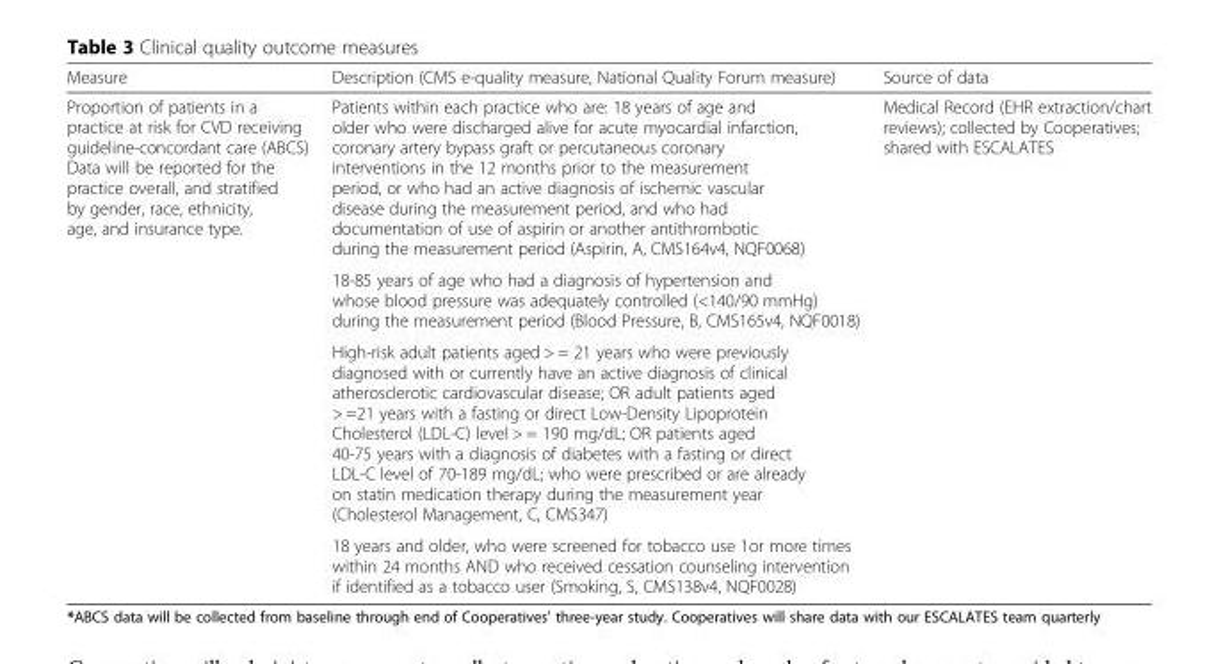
<table><thead><tr><td>Measure</td><td>Description (CMS e-quality measure, National Quality Forum measure)</td><td>Source of data</td></tr></thead><tbody><tr><td rowspan="4">Proportion of patients in a practice at risk for CVD receiving guideline-concordant care (ABCS) Data will be reported for the practice overall, and stratified by gender, race, ethnicity, age, and insurance type.</td><td>Patients within each practice who are: 18 years of age and older who were discharged alive for acute myocardial infarction, coronary artery bypass graft or percutaneous coronary interventions in the 12 months prior to the measurement period, or who had an active diagnosis of ischemic vascular disease during the measurement period, and who had documentation of use of aspirin or another antithrombotic during the measurement period (Aspirin, A, CMS164v4, NQF0068)</td><td rowspan="4">Medical Record (EHR extraction/chart reviews); collected by Cooperatives; shared with ESCALATES</td></tr><tr><td>18-85 years of age who had a diagnosis of hypertension and whose blood pressure was adequately controlled (&lt;140/90 mmHg) during the measurement period (Blood Pressure, B, CMS165v4, NQF0018)</td></tr><tr><td>High-risk adult patients aged &gt; = 21 years who were previously diagnosed with or currently have an active diagnosis of clinical atherosclerotic cardiovascular disease; OR adult patients aged &gt; =21 years with a fasting or direct Low-Density Lipoprotein Cholesterol (LDL-C) level &gt; = 190 mg/dL; OR patients aged 40-75 years with a diagnosis of diabetes with a fasting or direct LDL-C level of 70-189 mg/dL; who were prescribed or are already on statin medication therapy during the measurement year (Cholesterol Management, C, CMS347)</td></tr><tr><td>18 years and older, who were screened for tobacco use 1or more times within 24 months AND who received cessation counseling intervention if identified as a tobacco user (Smoking, S, CMS138v4, NQF0028)</td></tr></tbody></table>